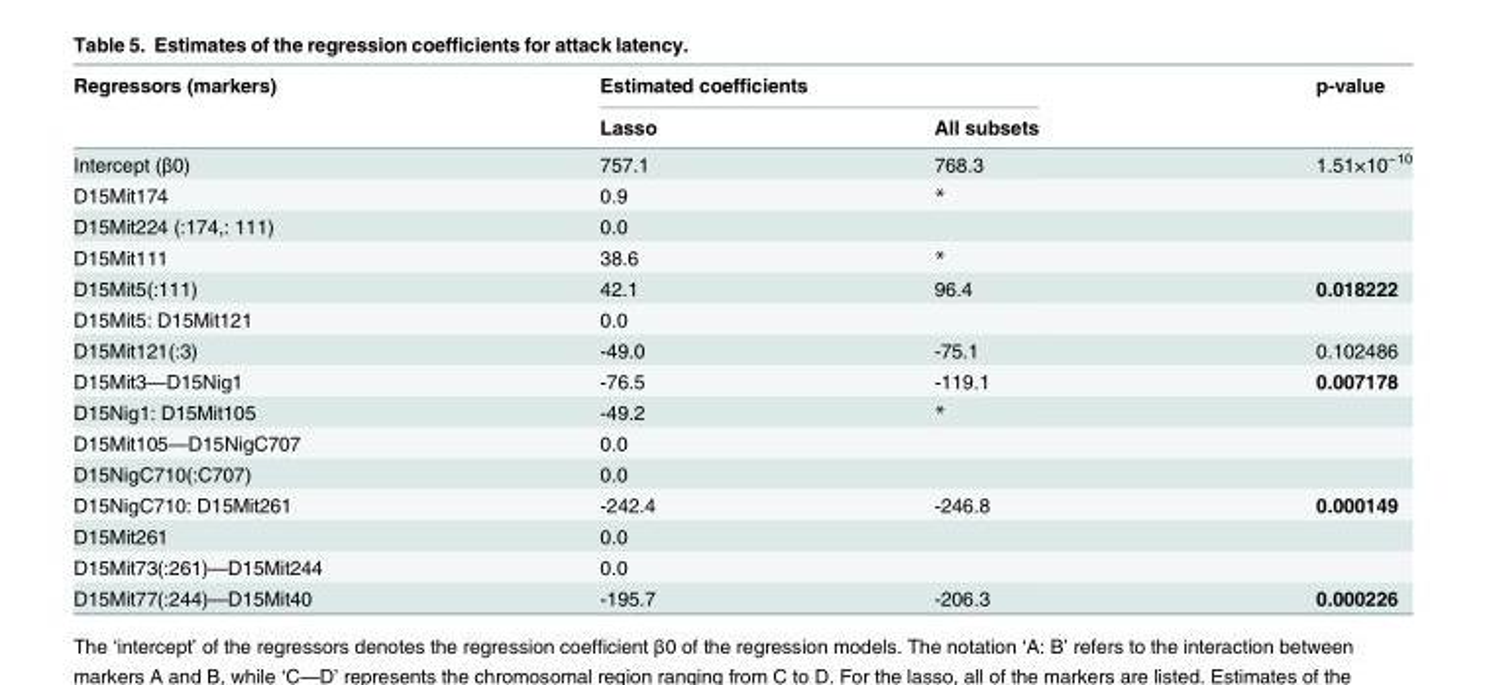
<table><thead><tr><td rowspan="2">Regressors (markers)</td><td colspan="2">Estimated coefficients</td><td rowspan="2">p-value</td></tr><tr><td>Lasso</td><td>All subsets</td></tr></thead><tbody><tr><td>Intercept (β0)</td><td>757.1</td><td>768.3</td><td>1.51×10<sup>−10</sup></td></tr><tr><td>D15Mit174</td><td>0.9</td><td>*</td><td></td></tr><tr><td>D15Mit224 (:174,: 111)</td><td>0.0</td><td></td><td></td></tr><tr><td>D15Mit111</td><td>38.6</td><td>*</td><td></td></tr><tr><td>D15Mit5(:111)</td><td>42.1</td><td>96.4</td><td>0.018222</td></tr><tr><td>D15Mit5: D15Mit121</td><td>0.0</td><td></td><td></td></tr><tr><td>D15Mit121(:3)</td><td>-49.0</td><td>-75.1</td><td>0.102486</td></tr><tr><td>D15Mit3—D15Nig1</td><td>-76.5</td><td>-119.1</td><td>0.007178</td></tr><tr><td>D15Nig1: D15Mit105</td><td>-49.2</td><td>*</td><td></td></tr><tr><td>D15Mit105—D15NigC707</td><td>0.0</td><td></td><td></td></tr><tr><td>D15NigC710(:C707)</td><td>0.0</td><td></td><td></td></tr><tr><td>D15NigC710: D15Mit261</td><td>-242.4</td><td>-246.8</td><td>0.000149</td></tr><tr><td>D15Mit261</td><td>0.0</td><td></td><td></td></tr><tr><td>D15Mit73(:261)—D15Mit244</td><td>0.0</td><td></td><td></td></tr><tr><td>D15Mit77(:244)—D15Mit40</td><td>-195.7</td><td>-206.3</td><td>0.000226</td></tr></tbody></table>